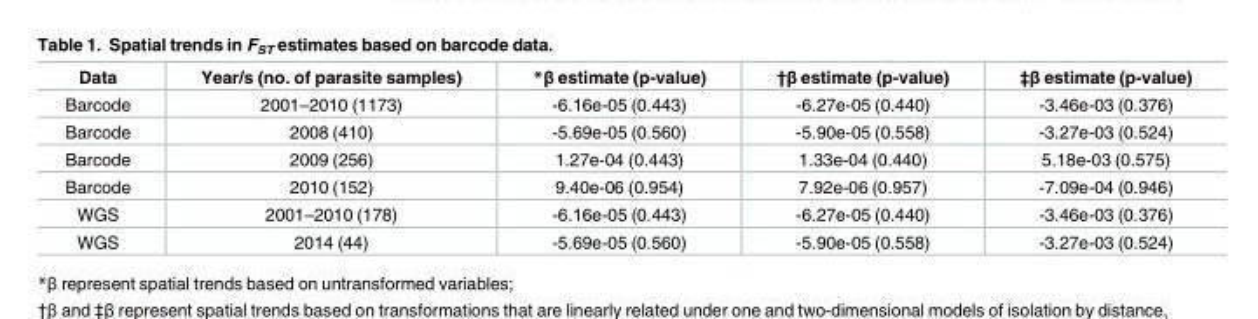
<table><thead><tr><td>Data</td><td>Year/s (no. of parasite samples)</td><td>*β estimate (p-value)</td><td>†β estimate (p-value)</td><td>‡β estimate (p-value)</td></tr></thead><tbody><tr><td>Barcode</td><td>2001–2010 (1173)</td><td>-6.16e-05 (0.443)</td><td>-6.27e-05 (0.440)</td><td>-3.46e-03 (0.376)</td></tr><tr><td>Barcode</td><td>2008 (410)</td><td>-5.69e-05 (0.560)</td><td>-5.90e-05 (0.558)</td><td>-3.27e-03 (0.524)</td></tr><tr><td>Barcode</td><td>2009 (256)</td><td>1.27e-04 (0.443)</td><td>1.33e-04 (0.440)</td><td>5.18e-03 (0.575)</td></tr><tr><td>Barcode</td><td>2010 (152)</td><td>9.40e-06 (0.954)</td><td>7.92e-06 (0.957)</td><td>-7.09e-04 (0.946)</td></tr><tr><td>WGS</td><td>2001–2010 (178)</td><td>-6.16e-05 (0.443)</td><td>-6.27e-05 (0.440)</td><td>-3.46e-03 (0.376)</td></tr><tr><td>WGS</td><td>2014 (44)</td><td>-5.69e-05 (0.560)</td><td>-5.90e-05 (0.558)</td><td>-3.27e-03 (0.524)</td></tr></tbody></table>